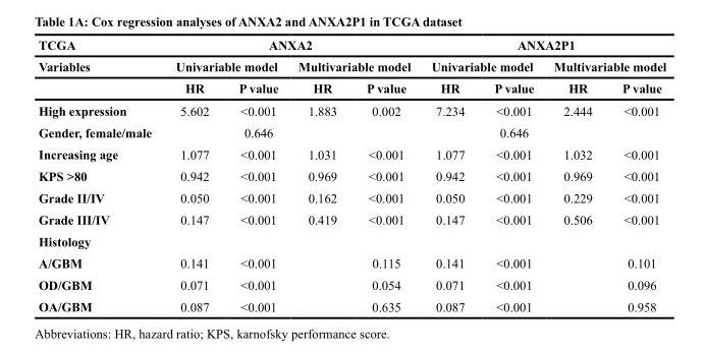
<table><thead><tr><td rowspan="3">TCGA Variables</td><td colspan="4">ANXA2</td><td colspan="4">ANXA2P1</td></tr><tr><td colspan="2">Univariable model</td><td colspan="2">Multivariable model</td><td colspan="2">Univariable model</td><td colspan="2">Multivariable model</td></tr><tr><td>HR</td><td>P value</td><td>HR</td><td>P value</td><td>HR</td><td>P value</td><td>HR</td><td>P value</td></tr></thead><tbody><tr><td>High expression</td><td>5.602</td><td>&lt;0.001</td><td>1.883</td><td>0.002</td><td>7.234</td><td>&lt;0.001</td><td>2.444</td><td>&lt;0.001</td></tr><tr><td>Gender, female/male</td><td></td><td>0.646</td><td></td><td></td><td></td><td>0.646</td><td></td><td></td></tr><tr><td>Increasing age</td><td>1.077</td><td>&lt;0.001</td><td>1.031</td><td>&lt;0.001</td><td>1.077</td><td>&lt;0.001</td><td>1.032</td><td>&lt;0.001</td></tr><tr><td>KPS &gt;80</td><td>0.942</td><td>&lt;0.001</td><td>0.969</td><td>&lt;0.001</td><td>0.942</td><td>&lt;0.001</td><td>0.969</td><td>&lt;0.001</td></tr><tr><td>Grade II/IV</td><td>0.050</td><td>&lt;0.001</td><td>0.162</td><td>&lt;0.001</td><td>0.050</td><td>&lt;0.001</td><td>0.229</td><td>&lt;0.001</td></tr><tr><td>Grade III/IV</td><td>0.147</td><td>&lt;0.001</td><td>0.419</td><td>&lt;0.001</td><td>0.147</td><td>&lt;0.001</td><td>0.506</td><td>&lt;0.001</td></tr><tr><td colspan="9">Histology</td></tr><tr><td>A/GBM</td><td>0.141</td><td>&lt;0.001</td><td></td><td>0.115</td><td>0.141</td><td>&lt;0.001</td><td></td><td>0.101</td></tr><tr><td>OD/GBM</td><td>0.071</td><td>&lt;0.001</td><td></td><td>0.054</td><td>0.071</td><td>&lt;0.001</td><td></td><td>0.096</td></tr><tr><td>OA/GBM</td><td>0.087</td><td>&lt;0.001</td><td></td><td>0.635</td><td>0.087</td><td>&lt;0.001</td><td></td><td>0.958</td></tr></tbody></table>